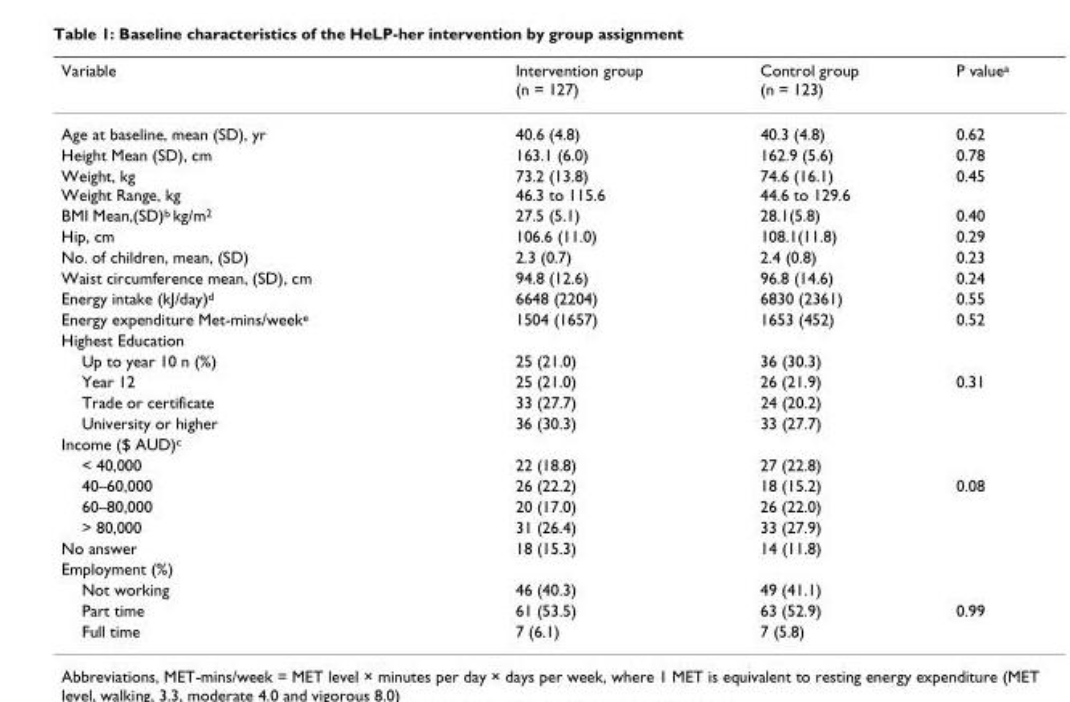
<table><thead><tr><td>Variable</td><td>Intervention group (n = 127)</td><td>Control group (n = 123)</td><td>P value<sup>a</sup></td></tr></thead><tbody><tr><td>Age at baseline, mean (SD), yr</td><td>40.6 (4.8)</td><td>40.3 (4.8)</td><td>0.62</td></tr><tr><td>Height Mean (SD), cm</td><td>163.1 (6.0)</td><td>162.9 (5.6)</td><td>0.78</td></tr><tr><td>Weight, kg Weight Range, kg</td><td>73.2 (13.8) 46.3 to 115.6</td><td>74.6 (16.1) 44.6 to 129.6</td><td>0.45</td></tr><tr><td>BMI Mean,(SD)<sup>b</sup> kg/m<sup>2</sup></td><td>27.5 (5.1)</td><td>28.1(5.8)</td><td>0.40</td></tr><tr><td>Hip, cm</td><td>106.6 (11.0)</td><td>108.1(11.8)</td><td>0.29</td></tr><tr><td>No. of children, mean, (SD)</td><td>2.3 (0.7)</td><td>2.4 (0.8)</td><td>0.23</td></tr><tr><td>Waist circumference mean, (SD), cm</td><td>94.8 (12.6)</td><td>96.8 (14.6)</td><td>0.24</td></tr><tr><td>Energy intake (kJ/day)<sup>d</sup></td><td>6648 (2204)</td><td>6830 (2361)</td><td>0.55</td></tr><tr><td>Energy expenditure Met-mins/week<sup>e</sup></td><td>1504 (1657)</td><td>1653 (452)</td><td>0.52</td></tr><tr><td colspan="4">Highest Education</td></tr><tr><td>Up to year 10 n (%)</td><td>25 (21.0)</td><td>36 (30.3)</td><td></td></tr><tr><td>Year 12</td><td>25 (21.0)</td><td>26 (21.9)</td><td>0.31</td></tr><tr><td>Trade or certificate</td><td>33 (27.7)</td><td>24 (20.2)</td><td></td></tr><tr><td>University or higher</td><td>36 (30.3)</td><td>33 (27.7)</td><td></td></tr><tr><td colspan="4">Income ($ AUD)<sup>c</sup></td></tr><tr><td>&lt; 40,000</td><td>22 (18.8)</td><td>27 (22.8)</td><td></td></tr><tr><td>40–60,000</td><td>26 (22.2)</td><td>18 (15.2)</td><td>0.08</td></tr><tr><td>60–80,000</td><td>20 (17.0)</td><td>26 (22.0)</td><td></td></tr><tr><td>&gt; 80,000</td><td>31 (26.4)</td><td>33 (27.9)</td><td></td></tr><tr><td>No answer</td><td>18 (15.3)</td><td>14 (11.8)</td><td></td></tr><tr><td colspan="4">Employment (%)</td></tr><tr><td>Not working</td><td>46 (40.3)</td><td>49 (41.1)</td><td></td></tr><tr><td>Part time</td><td>61 (53.5)</td><td>63 (52.9)</td><td>0.99</td></tr><tr><td>Full time</td><td>7 (6.1)</td><td>7 (5.8)</td><td></td></tr></tbody></table>